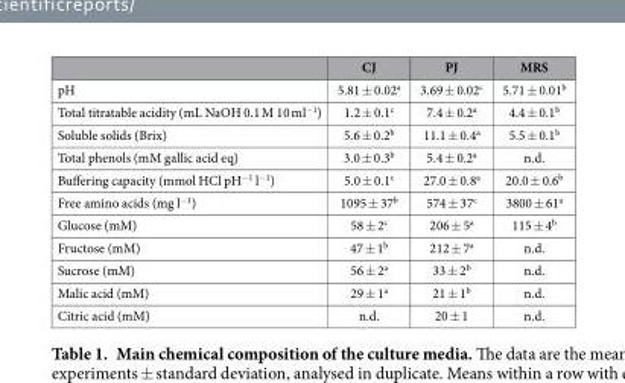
<table><thead><tr><td></td><td>CJ</td><td>PJ</td><td>MRS</td></tr></thead><tbody><tr><td>pH</td><td>5.81 ± 0.02<sup>a</sup></td><td>3.69 ± 0.02<sup>c</sup></td><td>5.71 ± 0.01<sup>b</sup></td></tr><tr><td>Total titratable acidity (mL NaOH 0.1 M 10 ml<sup>−1</sup>)</td><td>1.2 ± 0.1<sup>c</sup></td><td>7.4 ± 0.2<sup>a</sup></td><td>4.4 ± 0.1<sup>b</sup></td></tr><tr><td>Soluble solids (Brix)</td><td>5.6 ± 0.2<sup>b</sup></td><td>11.1 ± 0.4<sup>a</sup></td><td>5.5 ± 0.1<sup>b</sup></td></tr><tr><td>Total phenols (mM gallic acid eq)</td><td>3.0 ± 0.3<sup>b</sup></td><td>5.4 ± 0.2<sup>a</sup></td><td>n.d.</td></tr><tr><td>Buffering capacity (mmol HCl pH<sup>−1</sup> l<sup>−1</sup>)</td><td>5.0 ± 0.1<sup>c</sup></td><td>27.0 ± 0.8<sup>a</sup></td><td>20.0 ± 0.6<sup>b</sup></td></tr><tr><td>Free amino acids (mg l<sup>−1</sup>)</td><td>1095 ± 37<sup>b</sup></td><td>574 ± 37<sup>c</sup></td><td>3800 ± 61<sup>a</sup></td></tr><tr><td>Glucose (mM)</td><td>58 ± 2<sup>c</sup></td><td>206 ± 5<sup>a</sup></td><td>115 ± 4<sup>b</sup></td></tr><tr><td>Fructose (mM)</td><td>47 ± 1<sup>b</sup></td><td>212 ± 7<sup>a</sup></td><td>n.d.</td></tr><tr><td>Sucrose (mM)</td><td>56 ± 2<sup>a</sup></td><td>33 ± 2<sup>b</sup></td><td>n.d.</td></tr><tr><td>Malic acid (mM)</td><td>29 ± 1<sup>a</sup></td><td>21 ± 1<sup>b</sup></td><td>n.d.</td></tr><tr><td>Citric acid (mM)</td><td>n.d.</td><td>20 ± 1</td><td>n.d.</td></tr></tbody></table>